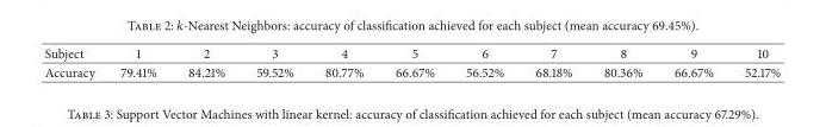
<table><thead><tr><td>Subject</td><td>1</td><td>2</td><td>3</td><td>4</td><td>5</td><td>6</td><td>7</td><td>8</td><td>9</td><td>10</td></tr></thead><tbody><tr><td>Accuracy</td><td>79.41%</td><td>84.21%</td><td>59.52%</td><td>80.77%</td><td>66.67%</td><td>56.52%</td><td>68.18%</td><td>80.36%</td><td>66.67%</td><td>52.17%</td></tr></tbody></table>